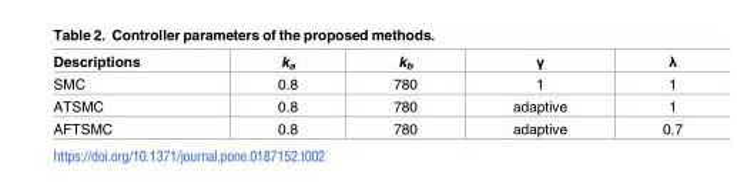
<table><thead><tr><td>Descriptions</td><td>k<sub>a</sub></td><td>k<sub>b</sub></td><td>γ</td><td>λ</td></tr></thead><tbody><tr><td>SMC</td><td>0.8</td><td>780</td><td>1</td><td>1</td></tr><tr><td>ATSMC</td><td>0.8</td><td>780</td><td>adaptive</td><td>1</td></tr><tr><td>AFTSMC</td><td>0.8</td><td>780</td><td>adaptive</td><td>0.7</td></tr></tbody></table>